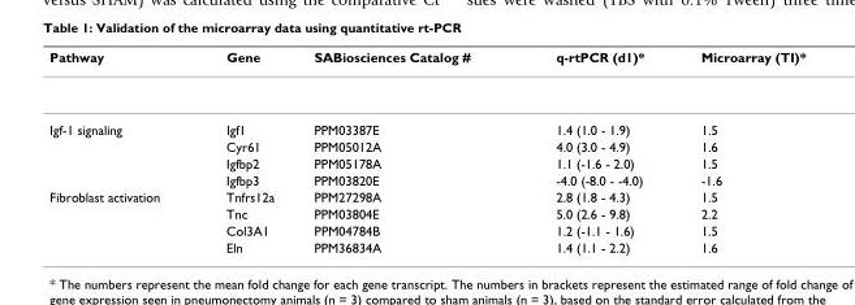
<table><thead><tr><td>Pathway</td><td>Gene</td><td>SABiosciences Catalog #</td><td>q-rtPCR (d1)*</td><td>Microarray (TI)*</td></tr></thead><tbody><tr><td rowspan="4">Igf-1 signaling</td><td>Igf1</td><td>PPM03387E</td><td>1.4 (1.0 - 1.9)</td><td>1.5</td></tr><tr><td>Cyr61</td><td>PPM05012A</td><td>4.0 (3.0 - 4.9)</td><td>1.6</td></tr><tr><td>Igfbp2</td><td>PPM05178A</td><td>1.1 (-1.6 - 2.0)</td><td>1.5</td></tr><tr><td>Igfbp3</td><td>PPM03820E</td><td>-4.0 (-8.0 - -4.0)</td><td>-1.6</td></tr><tr><td rowspan="4">Fibroblast activation</td><td>Tnfrs12a</td><td>PPM27298A</td><td>2.8 (1.8 - 4.3)</td><td>1.5</td></tr><tr><td>Tnc</td><td>PPM03804E</td><td>5.0 (2.6 - 9.8)</td><td>2.2</td></tr><tr><td>Col3A1</td><td>PPM04784B</td><td>1.2 (-1.1 - 1.6)</td><td>1.5</td></tr><tr><td>Eln</td><td>PPM36834A</td><td>1.4 (1.1 - 2.2)</td><td>1.6</td></tr></tbody></table>